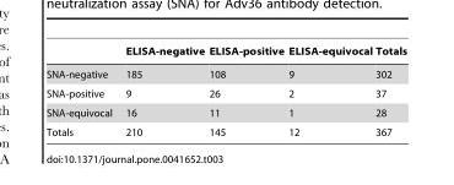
<table><thead><tr><td></td><td>ELISA-negative</td><td>ELISA-positive</td><td>ELISA-equivocal</td><td>Totals</td></tr></thead><tbody><tr><td>SNA-negative</td><td>185</td><td>108</td><td>9</td><td>302</td></tr><tr><td>SNA-positive</td><td>9</td><td>26</td><td>2</td><td>37</td></tr><tr><td>SNA-equivocal</td><td>16</td><td>11</td><td>1</td><td>28</td></tr><tr><td>Totals</td><td>210</td><td>145</td><td>12</td><td>367</td></tr></tbody></table>